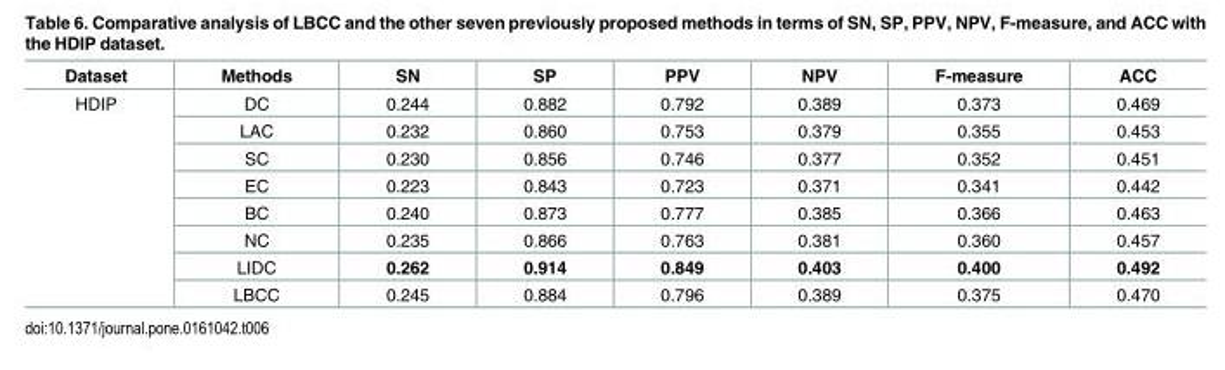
<table><thead><tr><td>Dataset</td><td>Methods</td><td>SN</td><td>SP</td><td>PPV</td><td>NPV</td><td>F-measure</td><td>ACC</td></tr></thead><tbody><tr><td rowspan="8">HDIP</td><td>DC</td><td>0.244</td><td>0.882</td><td>0.792</td><td>0.389</td><td>0.373</td><td>0.469</td></tr><tr><td>LAC</td><td>0.232</td><td>0.860</td><td>0.753</td><td>0.379</td><td>0.355</td><td>0.453</td></tr><tr><td>SC</td><td>0.230</td><td>0.856</td><td>0.746</td><td>0.377</td><td>0.352</td><td>0.451</td></tr><tr><td>EC</td><td>0.223</td><td>0.843</td><td>0.723</td><td>0.371</td><td>0.341</td><td>0.442</td></tr><tr><td>BC</td><td>0.240</td><td>0.873</td><td>0.777</td><td>0.385</td><td>0.366</td><td>0.463</td></tr><tr><td>NC</td><td>0.235</td><td>0.866</td><td>0.763</td><td>0.381</td><td>0.360</td><td>0.457</td></tr><tr><td>LIDC</td><td>0.262</td><td>0.914</td><td>0.849</td><td>0.403</td><td>0.400</td><td>0.492</td></tr><tr><td>LBCC</td><td>0.245</td><td>0.884</td><td>0.796</td><td>0.389</td><td>0.375</td><td>0.470</td></tr></tbody></table>